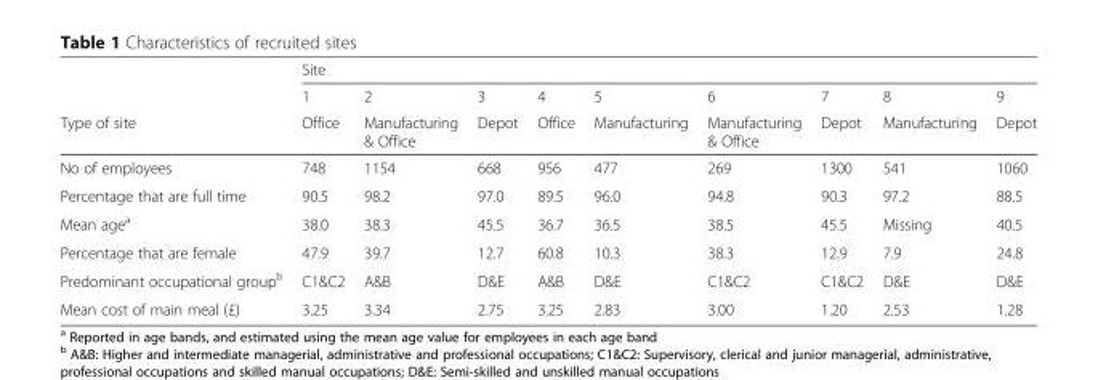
<table><thead><tr><td rowspan="3">Type of site</td><td colspan="9">Site</td></tr><tr><td rowspan="2">1 Office</td><td rowspan="2">2 Manufacturing &amp; Office</td><td rowspan="2">3 Depot</td><td rowspan="2">4 Office</td><td rowspan="2">5 Manufacturing</td><td rowspan="2">6 Manufacturing &amp; Office</td><td rowspan="2">7 Depot</td><td rowspan="2">8 Manufacturing</td><td rowspan="2">9 Depot</td></tr><tr></tr></thead><tbody><tr><td>No of employees</td><td>748</td><td>1154</td><td>668</td><td>956</td><td>477</td><td>269</td><td>1300</td><td>541</td><td>1060</td></tr><tr><td>Percentage that are full time</td><td>90.5</td><td>98.2</td><td>97.0</td><td>89.5</td><td>96.0</td><td>94.8</td><td>90.3</td><td>97.2</td><td>88.5</td></tr><tr><td>Mean age<sup>a</sup></td><td>38.0</td><td>38.3</td><td>45.5</td><td>36.7</td><td>36.5</td><td>38.5</td><td>45.5</td><td>Missing</td><td>40.5</td></tr><tr><td>Percentage that are female</td><td>47.9</td><td>39.7</td><td>12.7</td><td>60.8</td><td>10.3</td><td>38.3</td><td>12.9</td><td>7.9</td><td>24.8</td></tr><tr><td>Predominant occupational group<sup>b</sup></td><td>C1&amp;C2</td><td>A&amp;B</td><td>D&amp;E</td><td>A&amp;B</td><td>D&amp;E</td><td>C1&amp;C2</td><td>C1&amp;C2</td><td>D&amp;E</td><td>D&amp;E</td></tr><tr><td>Mean cost of main meal (£)</td><td>3.25</td><td>3.34</td><td>2.75</td><td>3.25</td><td>2.83</td><td>3.00</td><td>1.20</td><td>2.53</td><td>1.28</td></tr></tbody></table>